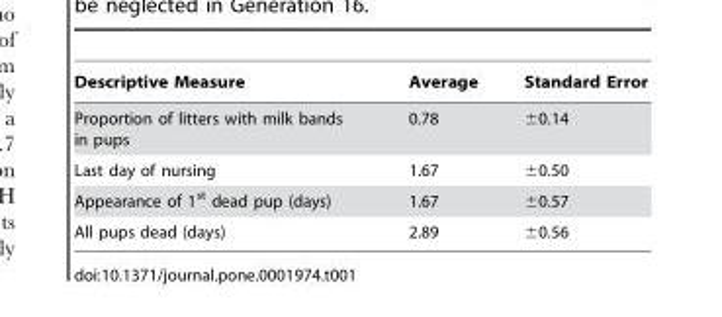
<table><thead><tr><td>Descriptive Measure</td><td>Average</td><td>Standard Error</td></tr></thead><tbody><tr><td>Proportion of litters with milk bands in pups</td><td>0.78</td><td>±0.14</td></tr><tr><td>Last day of nursing</td><td>1.67</td><td>±0.50</td></tr><tr><td>Appearance of 1<sup>st</sup> dead pup (days)</td><td>1.67</td><td>±0.57</td></tr><tr><td>All pups dead (days)</td><td>2.89</td><td>±0.56</td></tr></tbody></table>